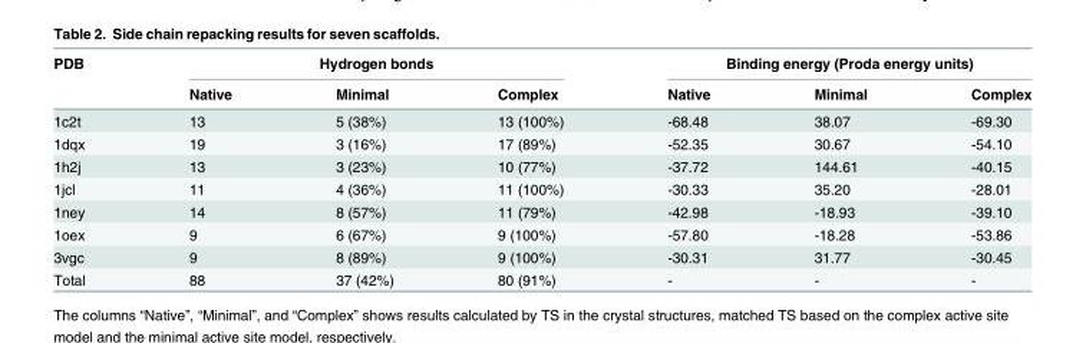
<table><thead><tr><td rowspan="2">PDB</td><td colspan="3">Hydrogen bonds</td><td colspan="3">Binding energy (Proda energy units)</td></tr><tr><td>Native</td><td>Minimal</td><td>Complex</td><td>Native</td><td>Minimal</td><td>Complex</td></tr></thead><tbody><tr><td>1c2t</td><td>13</td><td>5 (38%)</td><td>13 (100%)</td><td>-68.48</td><td>38.07</td><td>-69.30</td></tr><tr><td>1dqx</td><td>19</td><td>3 (16%)</td><td>17 (89%)</td><td>-52.35</td><td>30.67</td><td>-54.10</td></tr><tr><td>1h2j</td><td>13</td><td>3 (23%)</td><td>10 (77%)</td><td>-37.72</td><td>144.61</td><td>-40.15</td></tr><tr><td>1jcl</td><td>11</td><td>4 (36%)</td><td>11 (100%)</td><td>-30.33</td><td>35.20</td><td>-28.01</td></tr><tr><td>1ney</td><td>14</td><td>8 (57%)</td><td>11 (79%)</td><td>-42.98</td><td>-18.93</td><td>-39.10</td></tr><tr><td>1oex</td><td>9</td><td>6 (67%)</td><td>9 (100%)</td><td>-57.80</td><td>-18.28</td><td>-53.86</td></tr><tr><td>3vgc</td><td>9</td><td>8 (89%)</td><td>9 (100%)</td><td>-30.31</td><td>31.77</td><td>-30.45</td></tr><tr><td>Total</td><td>88</td><td>37 (42%)</td><td>80 (91%)</td><td>-</td><td>-</td><td>-</td></tr></tbody></table>